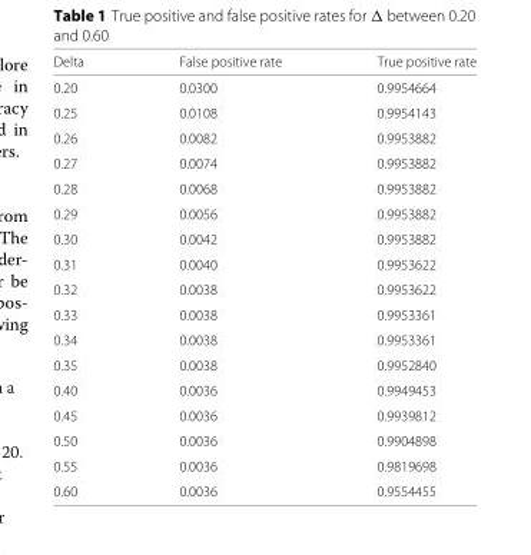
<table><thead><tr><td>Delta</td><td>False positive rate</td><td>True positive rate</td></tr></thead><tbody><tr><td>0.20</td><td>0.0300</td><td>0.9954664</td></tr><tr><td>0.25</td><td>0.0108</td><td>0.9954143</td></tr><tr><td>0.26</td><td>0.0082</td><td>0.9953882</td></tr><tr><td>0.27</td><td>0.0074</td><td>0.9953882</td></tr><tr><td>0.28</td><td>0.0068</td><td>0.9953882</td></tr><tr><td>0.29</td><td>0.0056</td><td>0.9953882</td></tr><tr><td>0.30</td><td>0.0042</td><td>0.9953882</td></tr><tr><td>0.31</td><td>0.0040</td><td>0.9953622</td></tr><tr><td>0.32</td><td>0.0038</td><td>0.9953622</td></tr><tr><td>0.33</td><td>0.0038</td><td>0.9953361</td></tr><tr><td>0.34</td><td>0.0038</td><td>0.9953361</td></tr><tr><td>0.35</td><td>0.0038</td><td>0.9952840</td></tr><tr><td>0.40</td><td>0.0036</td><td>0.9949453</td></tr><tr><td>0.45</td><td>0.0036</td><td>0.9939812</td></tr><tr><td>0.50</td><td>0.0036</td><td>0.9904898</td></tr><tr><td>0.55</td><td>0.0036</td><td>0.9819698</td></tr><tr><td>0.60</td><td>0.0036</td><td>0.9554455</td></tr></tbody></table>